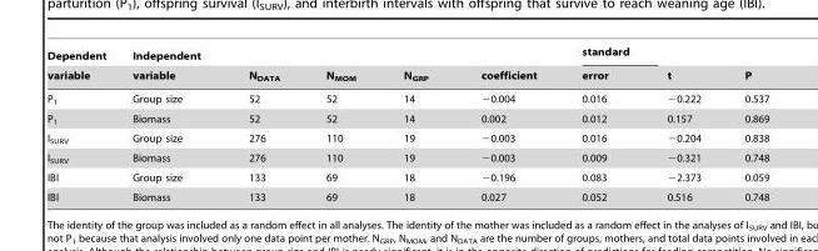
<table><thead><tr><td rowspan="2">Dependent variable</td><td rowspan="2">Independent variable</td><td rowspan="2">N<sub>DATA</sub></td><td rowspan="2">N<sub>MOM</sub></td><td rowspan="2">N<sub>GRP</sub></td><td rowspan="2">coefficient</td><td rowspan="2">standard error</td><td rowspan="2">t</td><td rowspan="2">P</td></tr><tr></tr></thead><tbody><tr><td>P<sub>1</sub></td><td>Group size</td><td>52</td><td>52</td><td>14</td><td>−0.004</td><td>0.016</td><td>−0.222</td><td>0.537</td></tr><tr><td>P<sub>1</sub></td><td>Biomass</td><td>52</td><td>52</td><td>14</td><td>0.002</td><td>0.012</td><td>0.157</td><td>0.869</td></tr><tr><td>I<sub>SURV</sub></td><td>Group size</td><td>276</td><td>110</td><td>19</td><td>−0.003</td><td>0.016</td><td>−0.204</td><td>0.838</td></tr><tr><td>I<sub>SURV</sub></td><td>Biomass</td><td>276</td><td>110</td><td>19</td><td>−0.003</td><td>0.009</td><td>−0.321</td><td>0.748</td></tr><tr><td>IBI</td><td>Group size</td><td>133</td><td>69</td><td>18</td><td>−0.196</td><td>0.083</td><td>−2.373</td><td>0.059</td></tr><tr><td>IBI</td><td>Biomass</td><td>133</td><td>69</td><td>18</td><td>0.027</td><td>0.052</td><td>0.516</td><td>0.748</td></tr></tbody></table>